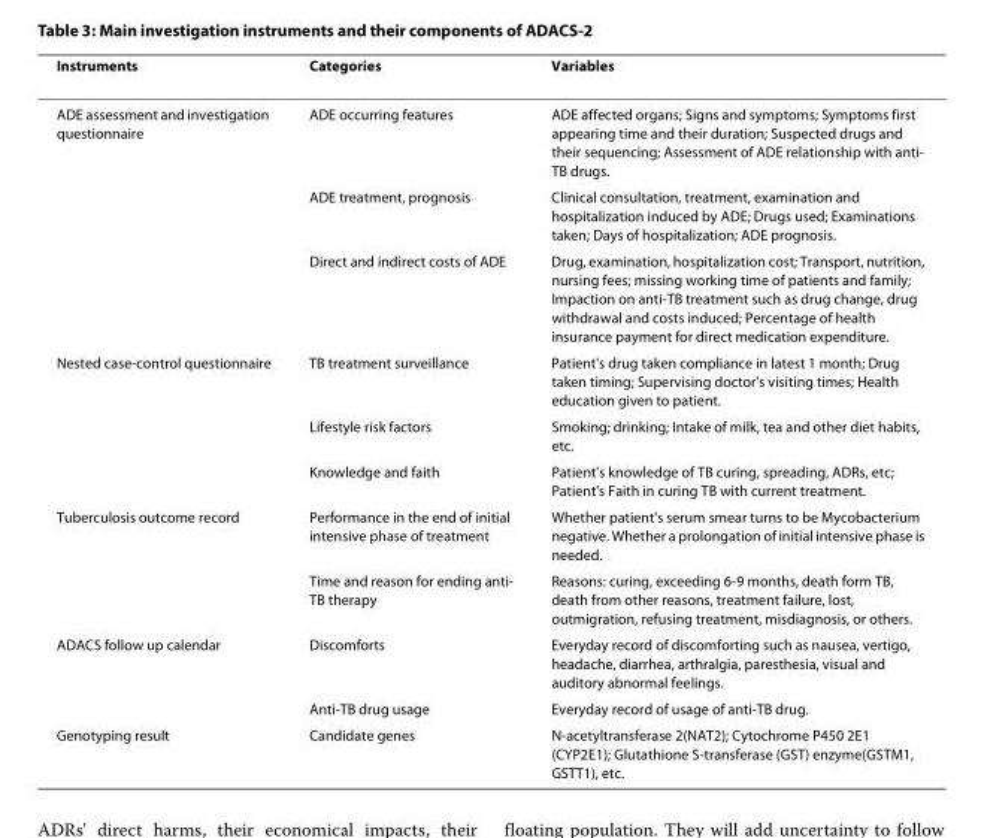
<table><thead><tr><td>Instruments</td><td>Categories</td><td>Variables</td></tr></thead><tbody><tr><td rowspan="3">ADE assessment and investigation questionnaire</td><td>ADE occurring features</td><td>ADE affected organs; Signs and symptoms; Symptoms first appearing time and their duration; Suspected drugs and their sequencing; Assessment of ADE relationship with anti- TB drugs.</td></tr><tr><td>ADE treatment, prognosis</td><td>Clinical consultation, treatment, examination and hospitalization induced by ADE; Drugs used; Examinations taken; Days of hospitalization; ADE prognosis.</td></tr><tr><td>Direct and indirect costs of ADE</td><td>Drug, examination, hospitalization cost; Transport, nutrition, nursing fees; missing working time of patients and family; Impaction on anti-TB treatment such as drug change, drug withdrawal and costs induced; Percentage of health insurance payment for direct medication expenditure.</td></tr><tr><td rowspan="3">Nested case-control questionnaire</td><td>TB treatment surveillance</td><td>Patient&#x27;s drug taken compliance in latest 1 month; Drug taken timing; Supervising doctor&#x27;s visiting times; Health education given to patient.</td></tr><tr><td>Lifestyle risk factors</td><td>Smoking; drinking; Intake of milk, tea and other diet habits, etc.</td></tr><tr><td>Knowledge and faith</td><td>Patient&#x27;s knowledge of TB curing, spreading, ADRs, etc; Patient&#x27;s Faith in curing TB with current treatment.</td></tr><tr><td rowspan="2">Tuberculosis outcome record</td><td>Performance in the end of initial intensive phase of treatment</td><td>Whether patient&#x27;s serum smear turns to be Mycobacterium negative. Whether a prolongation of initial intensive phase is needed.</td></tr><tr><td>Time and reason for ending anti- TB therapy</td><td>Reasons: curing, exceeding 6-9 months, death form TB, death from other reasons, treatment failure, lost, outmigration, refusing treatment, misdiagnosis, or others.</td></tr><tr><td rowspan="2">ADACS follow up calendar</td><td>Discomforts</td><td>Everyday record of discomforting such as nausea, vertigo, headache, diarrhea, arthralgia, paresthesia, visual and auditory abnormal feelings.</td></tr><tr><td>Anti-TB drug usage</td><td>Everyday record of usage of anti-TB drug.</td></tr><tr><td>Genotyping result</td><td>Candidate genes</td><td>N-acetyltransferase 2(NAT2); Cytochrome P450 2E1 (CYP2E1); Glutathione S-transferase (GST) enzyme(GSTM1, GSTT1), etc.</td></tr></tbody></table>